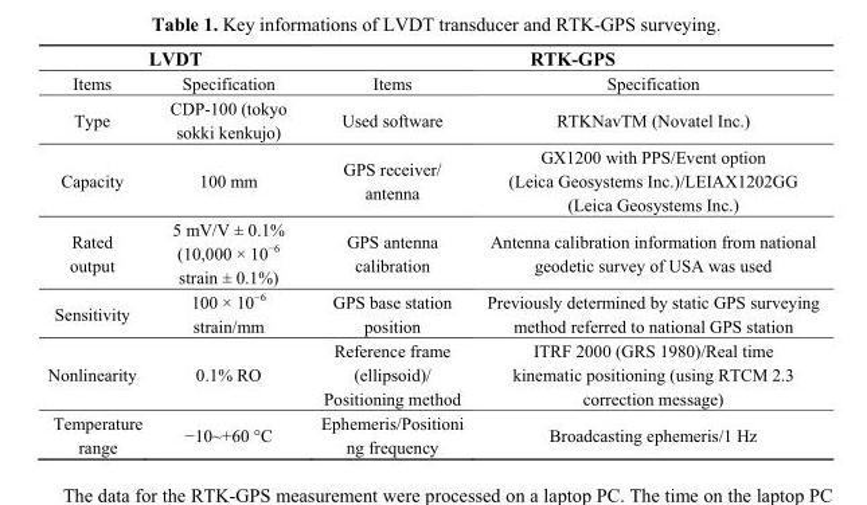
<table><thead><tr><td colspan="2">LVDT</td><td colspan="2">RTK-GPS</td></tr><tr><td>Items</td><td>Specification</td><td>Items</td><td>Specification</td></tr></thead><tbody><tr><td>Type</td><td>CDP-100 (tokyo sokki kenkujo)</td><td>Used software</td><td>RTKNavTM (Novatel Inc.)</td></tr><tr><td>Capacity</td><td>100 mm</td><td>GPS receiver/ antenna</td><td>GX1200 with PPS/Event option (Leica Geosystems Inc.)/LEIAX1202GG (Leica Geosystems Inc.)</td></tr><tr><td>Rated output</td><td>5 mV/V ± 0.1% (10,000 × 10<sup>−6</sup> strain ± 0.1%)</td><td>GPS antenna calibration</td><td>Antenna calibration information from national geodetic survey of USA was used</td></tr><tr><td>Sensitivity</td><td>100 × 10<sup>−6</sup> strain/mm</td><td>GPS base station position</td><td>Previously determined by static GPS surveying method referred to national GPS station</td></tr><tr><td>Nonlinearity</td><td>0.1% RO</td><td>Reference frame (ellipsoid)/ Positioning method</td><td>ITRF 2000 (GRS 1980)/Real time kinematic positioning (using RTCM 2.3 correction message)</td></tr><tr><td>Temperature range</td><td>−10~+60 °C</td><td>Ephemeris/Positioni ng frequency</td><td>Broadcasting ephemeris/1 Hz</td></tr></tbody></table>